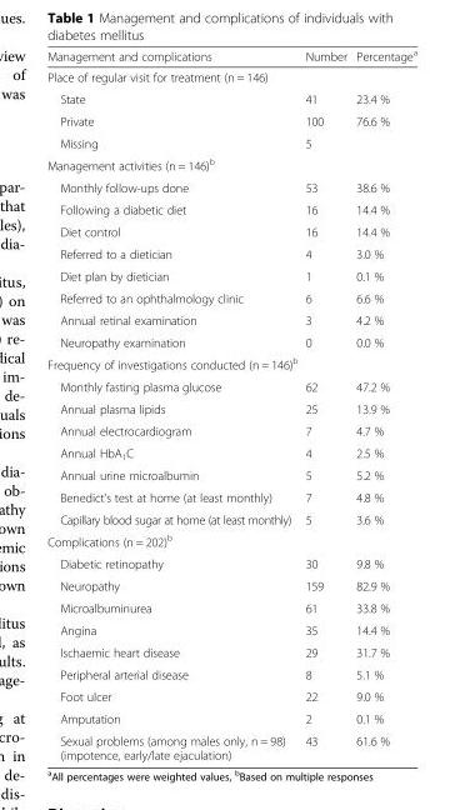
<table><thead><tr><td>Management and complications</td><td>Number</td><td>Percentage<sup>a</sup></td></tr></thead><tbody><tr><td colspan="3">Place of regular visit for treatment (n = 146)</td></tr><tr><td>State</td><td>41</td><td>23.4 %</td></tr><tr><td>Private</td><td>100</td><td>76.6 %</td></tr><tr><td>Missing</td><td>5</td><td></td></tr><tr><td colspan="3">Management activities (n = 146)<sup>b</sup></td></tr><tr><td>Monthly follow-ups done</td><td>53</td><td>38.6 %</td></tr><tr><td>Following a diabetic diet</td><td>16</td><td>14.4 %</td></tr><tr><td>Diet control</td><td>16</td><td>14.4 %</td></tr><tr><td>Referred to a dietician</td><td>4</td><td>3.0 %</td></tr><tr><td>Diet plan by dietician</td><td>1</td><td>0.1 %</td></tr><tr><td>Referred to an ophthalmology clinic</td><td>6</td><td>6.6 %</td></tr><tr><td>Annual retinal examination</td><td>3</td><td>4.2 %</td></tr><tr><td>Neuropathy examination</td><td>0</td><td>0.0 %</td></tr><tr><td colspan="3">Frequency of investigations conducted (n = 146)<sup>b</sup></td></tr><tr><td>Monthly fasting plasma glucose</td><td>62</td><td>47.2 %</td></tr><tr><td>Annual plasma lipids</td><td>25</td><td>13.9 %</td></tr><tr><td>Annual electrocardiogram</td><td>7</td><td>4.7 %</td></tr><tr><td>Annual HbA<sub>1</sub>C</td><td>4</td><td>2.5 %</td></tr><tr><td>Annual urine microalbumin</td><td>5</td><td>5.2 %</td></tr><tr><td>Benedict’s test at home (at least monthly)</td><td>7</td><td>4.8 %</td></tr><tr><td>Capillary blood sugar at home (at least monthly)</td><td>5</td><td>3.6 %</td></tr><tr><td colspan="3">Complications (n = 202)<sup>b</sup></td></tr><tr><td>Diabetic retinopathy</td><td>30</td><td>9.8 %</td></tr><tr><td>Neuropathy</td><td>159</td><td>82.9 %</td></tr><tr><td>Microalbuminurea</td><td>61</td><td>33.8 %</td></tr><tr><td>Angina</td><td>35</td><td>14.4 %</td></tr><tr><td>Ischaemic heart disease</td><td>29</td><td>31.7 %</td></tr><tr><td>Peripheral arterial disease</td><td>8</td><td>5.1 %</td></tr><tr><td>Foot ulcer</td><td>22</td><td>9.0 %</td></tr><tr><td>Amputation</td><td>2</td><td>0.1 %</td></tr><tr><td>Sexual problems (among males only, n = 98) (impotence, early/late ejaculation)</td><td>43</td><td>61.6 %</td></tr></tbody></table>